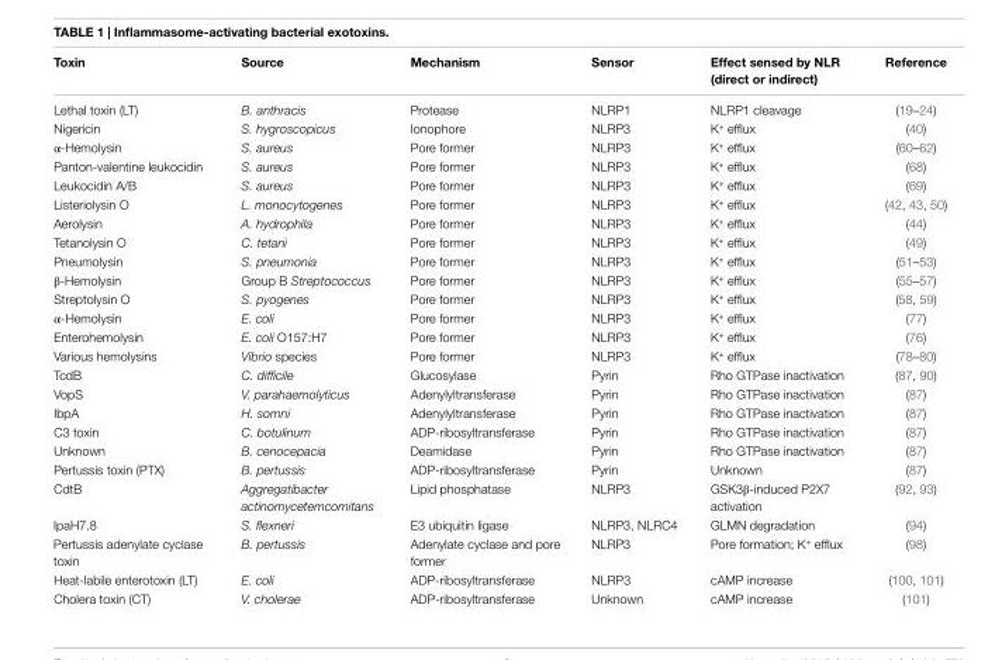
<table><thead><tr><td>Toxin</td><td>Source</td><td>Mechanism</td><td>Sensor</td><td>effect sensed by NLR (direct or indirect)</td><td>Reference</td></tr></thead><tbody><tr><td>Lethal toxin (LT)</td><td>B. anthracis</td><td>Protease</td><td>NLRP1</td><td>NLRP1 cleavage</td><td>(19–24)</td></tr><tr><td>Nigericin</td><td>S. hygroscopicus</td><td>Ionophore</td><td>NLRP3</td><td>K<sup>+</sup> efflux</td><td>(40)</td></tr><tr><td>α-Hemolysin</td><td>S. aureus</td><td>Pore former</td><td>NLRP3</td><td>K<sup>+</sup> efflux</td><td>(60–62)</td></tr><tr><td>Panton-valentine leukocidin</td><td>S. aureus</td><td>Pore former</td><td>NLRP3</td><td>K<sup>+</sup> efflux</td><td>(68)</td></tr><tr><td>Leukocidin A/B</td><td>S. aureus</td><td>Pore former</td><td>NLRP3</td><td>K<sup>+</sup> efflux</td><td>(69)</td></tr><tr><td>Listeriolysin O</td><td>L. monocytogenes</td><td>Pore former</td><td>NLRP3</td><td>K<sup>+</sup> efflux</td><td>(42, 43, 50)</td></tr><tr><td>Aerolysin</td><td>A. hydrophila</td><td>Pore former</td><td>NLRP3</td><td>K<sup>+</sup> efflux</td><td>(44)</td></tr><tr><td>Tetanolysin O</td><td>C. tetani</td><td>Pore former</td><td>NLRP3</td><td>K<sup>+</sup> efflux</td><td>(49)</td></tr><tr><td>Pneumolysin</td><td>S. pneumonia</td><td>Pore former</td><td>NLRP3</td><td>K<sup>+</sup> efflux</td><td>(51–53)</td></tr><tr><td>β-Hemolysin</td><td>Group B Streptococcus</td><td>Pore former</td><td>NLRP3</td><td>K<sup>+</sup> efflux</td><td>(55–57)</td></tr><tr><td>Streptolysin O</td><td>S. pyogenes</td><td>Pore former</td><td>NLRP3</td><td>K<sup>+</sup> efflux</td><td>(58, 59)</td></tr><tr><td>α-Hemolysin</td><td>E. coli</td><td>Pore former</td><td>NLRP3</td><td>K<sup>+</sup> efflux</td><td>(77)</td></tr><tr><td>Enterohemolysin</td><td>E. coli O157:H7</td><td>Pore former</td><td>NLRP3</td><td>K<sup>+</sup> efflux</td><td>(76)</td></tr><tr><td>Various hemolysins</td><td>Vibrio species</td><td>Pore former</td><td>NLRP3</td><td>K<sup>+</sup> efflux</td><td>(78–80)</td></tr><tr><td>TcdB</td><td>C. difficile</td><td>Glucosylase</td><td>Pyrin</td><td>Rho GTPase inactivation</td><td>(87, 90)</td></tr><tr><td>VopS</td><td>V. parahaemolyticus</td><td>Adenylyltransferase</td><td>Pyrin</td><td>Rho GTPase inactivation</td><td>(87)</td></tr><tr><td>IbpA</td><td>H. somni</td><td>Adenylyltransferase</td><td>Pyrin</td><td>Rho GTPase inactivation</td><td>(87)</td></tr><tr><td>C3 toxin</td><td>C. botulinum</td><td>ADP-ribosyltransferase</td><td>Pyrin</td><td>Rho GTPase inactivation</td><td>(87)</td></tr><tr><td>Unknown</td><td>B. cenocepacia</td><td>Deamidase</td><td>Pyrin</td><td>Rho GTPase inactivation</td><td>(87)</td></tr><tr><td>Pertussis toxin (PTX)</td><td>B. pertussis</td><td>ADP-ribosyltransferase</td><td>Pyrin</td><td>Unknown</td><td>(87)</td></tr><tr><td>CdtB</td><td>Aggregatibacter actinomycetemcomitans</td><td>Lipid phosphatase</td><td>NLRP3</td><td>GSK3β-induced P2X7 activation</td><td>(92, 93)</td></tr><tr><td>IpaH7.8</td><td>S. flexneri</td><td>E3 ubiquitin ligase</td><td>NLRP3, NLRC4</td><td>GLMN degradation</td><td>(94)</td></tr><tr><td>Pertussis adenylate cyclase toxin</td><td>B. pertussis</td><td>Adenylate cyclase and pore former</td><td>NLRP3</td><td>Pore formation; K<sup>+</sup> efflux</td><td>(98)</td></tr><tr><td>Heat-labile enterotoxin (LT)</td><td>E. coli</td><td>ADP-ribosyltransferase</td><td>NLRP3</td><td>cAMP increase</td><td>(100, 101)</td></tr><tr><td>Cholera toxin (CT)</td><td>V. cholerae</td><td>ADP-ribosyltransferase</td><td>Unknown</td><td>cAMP increase</td><td>(101)</td></tr></tbody></table>